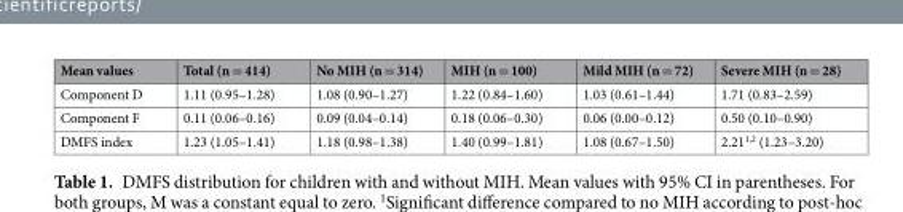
<table><thead><tr><td>Mean values</td><td>Total (n = 414)</td><td>No MIH (n = 314)</td><td>MIH (n = 100)</td><td>Mild MIH (n = 72)</td><td>Severe MIH (n = 28)</td></tr></thead><tbody><tr><td>Component D</td><td>1.11 (0.95–1.28)</td><td>1.08 (0.90–1.27)</td><td>1.22 (0.84–1.60)</td><td>1.03 (0.61–1.44)</td><td>1.71 (0.83–2.59)</td></tr><tr><td>Component F</td><td>0.11 (0.06–0.16)</td><td>0.09 (0.04–0.14)</td><td>0.18 (0.06–0.30)</td><td>0.06 (0.00–0.12)</td><td>0.50 (0.10–0.90)</td></tr><tr><td>DMFS index</td><td>1.23 (1.05–1.41)</td><td>1.18 (0.98–1.38)</td><td>1.40 (0.99–1.81)</td><td>1.08 (0.67–1.50)</td><td>2.21<sup>1,2</sup> (1.23–3.20)</td></tr></tbody></table>